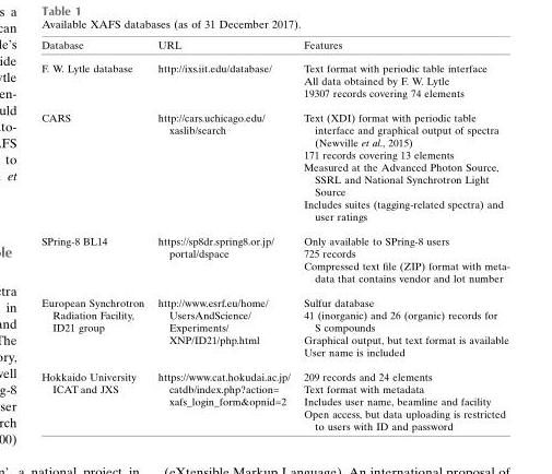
<table><thead><tr><td>Database</td><td>URL</td><td>Features</td></tr></thead><tbody><tr><td rowspan="3">F. W. Lytle database</td><td rowspan="3">http://ixs.iit.edu/database/</td><td>Text format with periodic table interface</td></tr><tr><td>All data obtained by F. W. Lytle</td></tr><tr><td>19307 records covering 74 elements</td></tr><tr><td rowspan="4">CARS</td><td rowspan="4">http://cars.uchicago.edu/ xaslib/search</td><td>Text (XDI) format with periodic table interface and graphical output of spectra (Newville et al., 2015)</td></tr><tr><td>171 records covering 13 elements</td></tr><tr><td>Measured at the Advanced Photon Source, SSRL and National Synchrotron Light Source</td></tr><tr><td>Includes suites (tagging-related spectra) and user ratings</td></tr><tr><td rowspan="3">SPring-8 BL14</td><td rowspan="3">https://sp8dr.spring8.or.jp/ portal/dspace</td><td>Only available to SPring-8 users</td></tr><tr><td>725 records</td></tr><tr><td>Compressed text file (ZIP) format with meta- data that contains vendor and lot number</td></tr><tr><td rowspan="4">European Synchrotron Radiation Facility, ID21 group</td><td rowspan="4">http://www.esrf.eu/home/ UsersAndScience/ Experiments/ XNP/ID21/php.html</td><td>Sulfur database</td></tr><tr><td>41 (inorganic) and 26 (organic) records for S compounds</td></tr><tr><td>Graphical output, but text format is available</td></tr><tr><td>User name is included</td></tr><tr><td rowspan="4">Hokkaido University ICAT and JXS</td><td rowspan="4">https://www.cat.hokudai.ac.jp/ catdb/index.php?action= xafs_login_form&amp;opnid=2</td><td>209 records and 24 elements</td></tr><tr><td>Text format with metadata</td></tr><tr><td>Includes user name, beamline and facility</td></tr><tr><td>Open access, but data uploading is restricted to users with ID and password</td></tr></tbody></table>